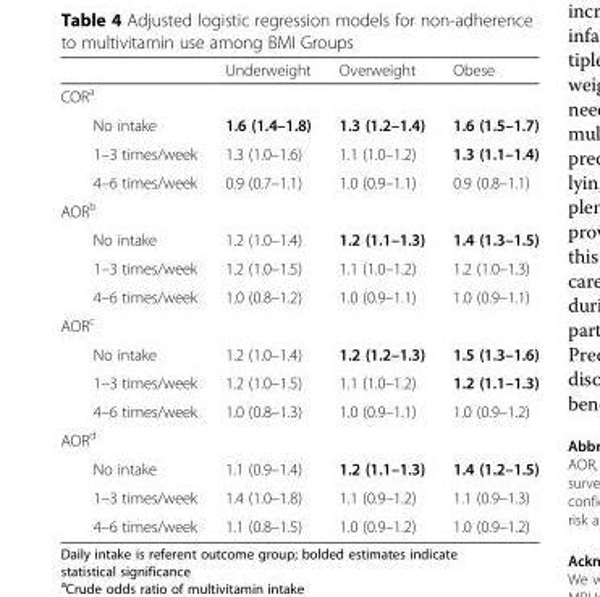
<table><thead><tr><td></td><td>Underweight</td><td>Overweight</td><td>Obese</td></tr></thead><tbody><tr><td colspan="4">COR<sup>a</sup></td></tr><tr><td>No intake</td><td>1.6 (1.4–1.8)</td><td>1.3 (1.2–1.4)</td><td>1.6 (1.5–1.7)</td></tr><tr><td>1–3 times/week</td><td>1.3 (1.0–1.6)</td><td>1.1 (1.0–1.2)</td><td>1.3 (1.1–1.4)</td></tr><tr><td>4–6 times/week</td><td>0.9 (0.7–1.1)</td><td>1.0 (0.9–1.1)</td><td>0.9 (0.8–1.1)</td></tr><tr><td colspan="4">AOR<sup>b</sup></td></tr><tr><td>No intake</td><td>1.2 (1.0–1.4)</td><td>1.2 (1.1–1.3)</td><td>1.4 (1.3–1.5)</td></tr><tr><td>1–3 times/week</td><td>1.2 (1.0–1.5)</td><td>1.1 (1.0–1.2)</td><td>1.2 (1.0–1.3)</td></tr><tr><td>4–6 times/week</td><td>1.0 (0.8–1.2)</td><td>1.0 (0.9–1.1)</td><td>1.0 (0.9–1.1)</td></tr><tr><td colspan="4">AOR<sup>c</sup></td></tr><tr><td>No intake</td><td>1.2 (1.0–1.4)</td><td>1.2 (1.2–1.3)</td><td>1.5 (1.3–1.6)</td></tr><tr><td>1–3 times/week</td><td>1.2 (1.0–1.5)</td><td>1.1 (1.0–1.2)</td><td>1.2 (1.1–1.3)</td></tr><tr><td>4–6 times/week</td><td>1.0 (0.8–1.3)</td><td>1.0 (0.9–1.1)</td><td>1.0 (0.9–1.2)</td></tr><tr><td colspan="4">AOR<sup>d</sup></td></tr><tr><td>No intake</td><td>1.1 (0.9–1.4)</td><td>1.2 (1.1–1.3)</td><td>1.4 (1.2–1.5)</td></tr><tr><td>1–3 times/week</td><td>1.4 (1.0–1.8)</td><td>1.1 (0.9–1.2)</td><td>1.1 (0.9–1.3)</td></tr><tr><td>4–6 times/week</td><td>1.1 (0.8–1.5)</td><td>1.0 (0.9–1.2)</td><td>1.0 (0.9–1.2)</td></tr></tbody></table>